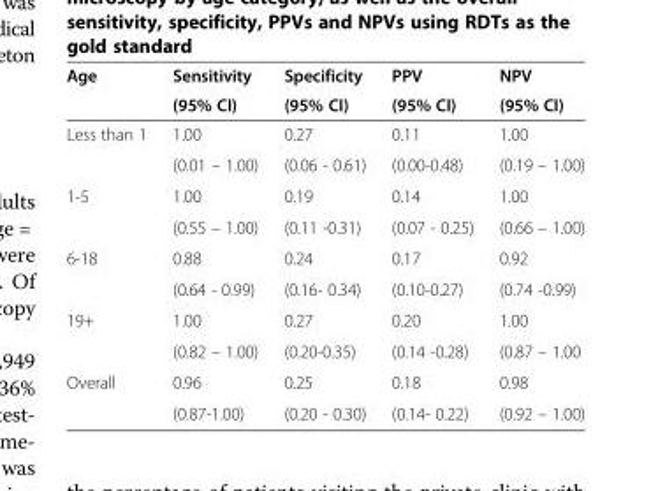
<table><thead><tr><td rowspan="2">Age</td><td rowspan="2">Sensitivity (95% CI)</td><td rowspan="2">Specificity (95% CI)</td><td rowspan="2">PPV (95% CI)</td><td rowspan="2">NPV (95% CI)</td></tr><tr></tr></thead><tbody><tr><td rowspan="2">Less than 1</td><td>1.00</td><td>0.27</td><td>0.11</td><td>1.00</td></tr><tr><td>(0.01 – 1.00)</td><td>(0.06 - 0.61)</td><td>(0.00-0.48)</td><td>(0.19 – 1.00)</td></tr><tr><td rowspan="2">1-5</td><td>1.00</td><td>0.19</td><td>0.14</td><td>1.00</td></tr><tr><td>(0.55 – 1.00)</td><td>(0.11 -0.31)</td><td>(0.07 - 0.25)</td><td>(0.66 – 1.00)</td></tr><tr><td rowspan="2">6-18</td><td>0.88</td><td>0.24</td><td>0.17</td><td>0.92</td></tr><tr><td>(0.64 - 0.99)</td><td>(0.16- 0.34)</td><td>(0.10-0.27)</td><td>(0.74 -0.99)</td></tr><tr><td rowspan="2">19+</td><td>1.00</td><td>0.27</td><td>0.20</td><td>1.00</td></tr><tr><td>(0.82 – 1.00)</td><td>(0.20-0.35)</td><td>(0.14 -0.28)</td><td>(0.87 – 1.00</td></tr><tr><td rowspan="2">Overall</td><td>0.96</td><td>0.25</td><td>0.18</td><td>0.98</td></tr><tr><td>(0.87-1.00)</td><td>(0.20 - 0.30)</td><td>(0.14- 0.22)</td><td>(0.92 – 1.00)</td></tr></tbody></table>